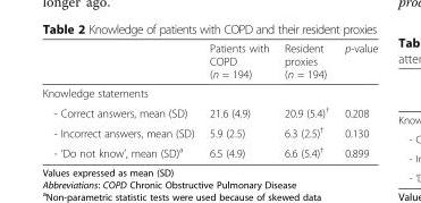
<table><thead><tr><td></td><td>Patients with COPD (n = 194)</td><td>Resident proxies (n = 194)</td><td>p-value</td></tr></thead><tbody><tr><td colspan="4">Knowledge statements</td></tr><tr><td>- Correct answers, mean (SD)</td><td>21.6 (4.9)</td><td>20.9 (5.4)<sup>†</sup></td><td>0.208</td></tr><tr><td>- Incorrect answers, mean (SD)</td><td>5.9 (2.5)</td><td>6.3 (2.5)<sup>†</sup></td><td>0.130</td></tr><tr><td>- ‘Do not know’, mean (SD)<sup>a</sup></td><td>6.5 (4.9)</td><td>6.6 (5.4)<sup>†</sup></td><td>0.899</td></tr></tbody></table>